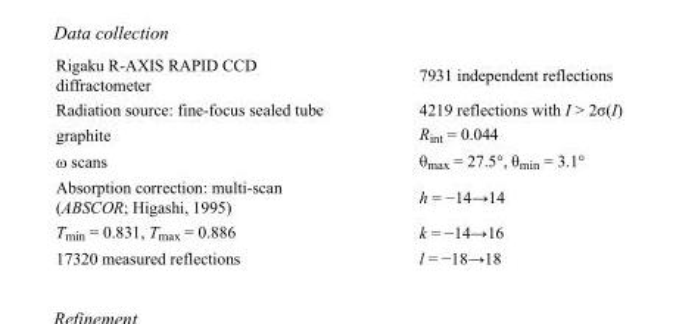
<table><tbody><tr><td>Rigaku R-AXIS RAPID CCD diffractometer</td><td>7931 independent reflections</td></tr><tr><td>Radiation source: fine-focus sealed tube</td><td>4219 reflections with I &gt; 2σ(I)</td></tr><tr><td>graphite</td><td>R<sub>int</sub> = 0.044</td></tr><tr><td>ω scans</td><td>θ<sub>max</sub> = 27.5°, θ<sub>min</sub> = 3.1°</td></tr><tr><td>Absorption correction: multi-scan (ABSCOR; Higashi, 1995)</td><td>h = −14→14</td></tr><tr><td>T<sub>min</sub> = 0.831, T<sub>max</sub> = 0.886</td><td>k = −14→16</td></tr><tr><td>17320 measured reflections</td><td>l = −18→18</td></tr></tbody></table>